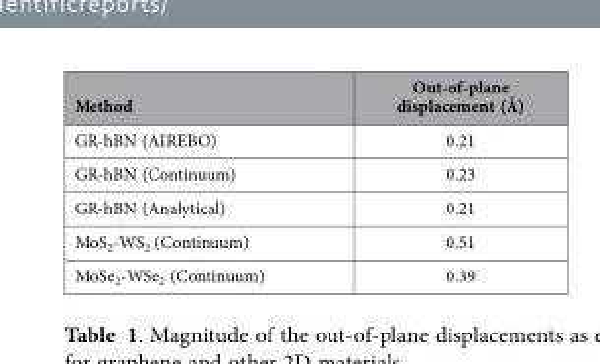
<table><thead><tr><td>Method</td><td>Out-of-plane displacement (Å)</td></tr></thead><tbody><tr><td>GR-hBN (AIREBO)</td><td>0.21</td></tr><tr><td>GR-hBN (Continuum)</td><td>0.23</td></tr><tr><td>GR-hBN (Analytical)</td><td>0.21</td></tr><tr><td>MoS<sub>2</sub>-WS<sub>2</sub> (Continuum)</td><td>0.51</td></tr><tr><td>MoSe<sub>2</sub>-WSe<sub>2</sub> (Continuum)</td><td>0.39</td></tr></tbody></table>